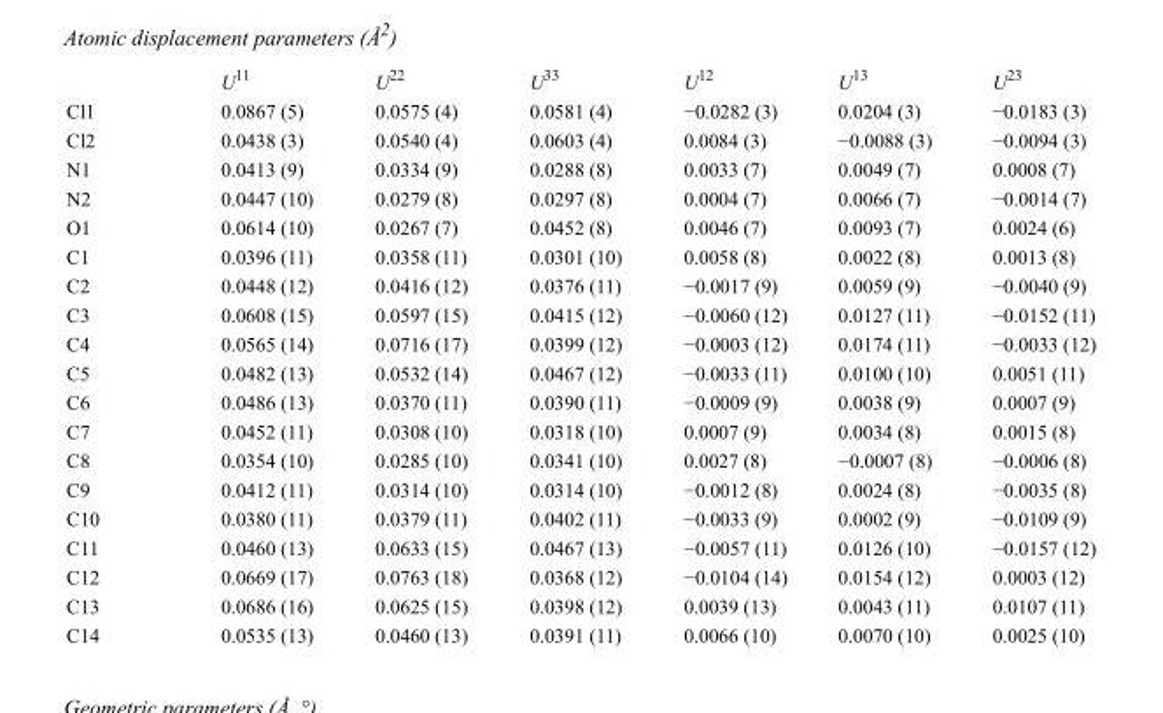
<table><thead><tr><td></td><td>U<sup>11</sup></td><td>U<sup>22</sup></td><td>U<sup>33</sup></td><td>U<sup>12</sup></td><td>U<sup>13</sup></td><td>U<sup>23</sup></td></tr></thead><tbody><tr><td>Cl1</td><td>0.0867 (5)</td><td>0.0575 (4)</td><td>0.0581 (4)</td><td>−0.0282 (3)</td><td>0.0204 (3)</td><td>−0.0183 (3)</td></tr><tr><td>Cl2</td><td>0.0438 (3)</td><td>0.0540 (4)</td><td>0.0603 (4)</td><td>0.0084 (3)</td><td>−0.0088 (3)</td><td>−0.0094 (3)</td></tr><tr><td>N1</td><td>0.0413 (9)</td><td>0.0334 (9)</td><td>0.0288 (8)</td><td>0.0033 (7)</td><td>0.0049 (7)</td><td>0.0008 (7)</td></tr><tr><td>N2</td><td>0.0447 (10)</td><td>0.0279 (8)</td><td>0.0297 (8)</td><td>0.0004 (7)</td><td>0.0066 (7)</td><td>−0.0014 (7)</td></tr><tr><td>O1</td><td>0.0614 (10)</td><td>0.0267 (7)</td><td>0.0452 (8)</td><td>0.0046 (7)</td><td>0.0093 (7)</td><td>0.0024 (6)</td></tr><tr><td>C1</td><td>0.0396 (11)</td><td>0.0358 (11)</td><td>0.0301 (10)</td><td>0.0058 (8)</td><td>0.0022 (8)</td><td>0.0013 (8)</td></tr><tr><td>C2</td><td>0.0448 (12)</td><td>0.0416 (12)</td><td>0.0376 (11)</td><td>−0.0017 (9)</td><td>0.0059 (9)</td><td>−0.0040 (9)</td></tr><tr><td>C3</td><td>0.0608 (15)</td><td>0.0597 (15)</td><td>0.0415 (12)</td><td>−0.0060 (12)</td><td>0.0127 (11)</td><td>−0.0152 (11)</td></tr><tr><td>C4</td><td>0.0565 (14)</td><td>0.0716 (17)</td><td>0.0399 (12)</td><td>−0.0003 (12)</td><td>0.0174 (11)</td><td>−0.0033 (12)</td></tr><tr><td>C5</td><td>0.0482 (13)</td><td>0.0532 (14)</td><td>0.0467 (12)</td><td>−0.0033 (11)</td><td>0.0100 (10)</td><td>0.0051 (11)</td></tr><tr><td>C6</td><td>0.0486 (13)</td><td>0.0370 (11)</td><td>0.0390 (11)</td><td>−0.0009 (9)</td><td>0.0038 (9)</td><td>0.0007 (9)</td></tr><tr><td>C7</td><td>0.0452 (11)</td><td>0.0308 (10)</td><td>0.0318 (10)</td><td>0.0007 (9)</td><td>0.0034 (8)</td><td>0.0015 (8)</td></tr><tr><td>C8</td><td>0.0354 (10)</td><td>0.0285 (10)</td><td>0.0341 (10)</td><td>0.0027 (8)</td><td>−0.0007 (8)</td><td>−0.0006 (8)</td></tr><tr><td>C9</td><td>0.0412 (11)</td><td>0.0314 (10)</td><td>0.0314 (10)</td><td>−0.0012 (8)</td><td>0.0024 (8)</td><td>−0.0035 (8)</td></tr><tr><td>C10</td><td>0.0380 (11)</td><td>0.0379 (11)</td><td>0.0402 (11)</td><td>−0.0033 (9)</td><td>0.0002 (9)</td><td>−0.0109 (9)</td></tr><tr><td>C11</td><td>0.0460 (13)</td><td>0.0633 (15)</td><td>0.0467 (13)</td><td>−0.0057 (11)</td><td>0.0126 (10)</td><td>−0.0157 (12)</td></tr><tr><td>C12</td><td>0.0669 (17)</td><td>0.0763 (18)</td><td>0.0368 (12)</td><td>−0.0104 (14)</td><td>0.0154 (12)</td><td>0.0003 (12)</td></tr><tr><td>C13</td><td>0.0686 (16)</td><td>0.0625 (15)</td><td>0.0398 (12)</td><td>0.0039 (13)</td><td>0.0043 (11)</td><td>0.0107 (11)</td></tr><tr><td>C14</td><td>0.0535 (13)</td><td>0.0460 (13)</td><td>0.0391 (11)</td><td>0.0066 (10)</td><td>0.0070 (10)</td><td>0.0025 (10)</td></tr></tbody></table>